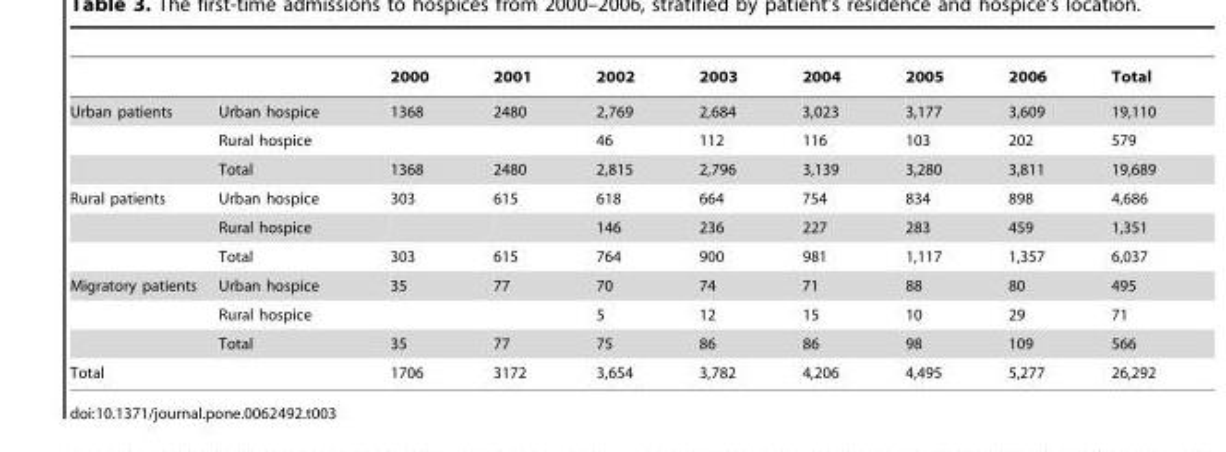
<table><thead><tr><td></td><td></td><td>2000</td><td>2001</td><td>2002</td><td>2003</td><td>2004</td><td>2005</td><td>2006</td><td>Total</td></tr></thead><tbody><tr><td rowspan="3">Urban patients</td><td>Urban hospice</td><td>1368</td><td>2480</td><td>2,769</td><td>2,684</td><td>3,023</td><td>3,177</td><td>3,609</td><td>19,110</td></tr><tr><td>Rural hospice</td><td></td><td></td><td>46</td><td>112</td><td>116</td><td>103</td><td>202</td><td>579</td></tr><tr><td>Total</td><td>1368</td><td>2480</td><td>2,815</td><td>2,796</td><td>3,139</td><td>3,280</td><td>3,811</td><td>19,689</td></tr><tr><td rowspan="3">Rural patients</td><td>Urban hospice</td><td>303</td><td>615</td><td>618</td><td>664</td><td>754</td><td>834</td><td>898</td><td>4,686</td></tr><tr><td>Rural hospice</td><td></td><td></td><td>146</td><td>236</td><td>227</td><td>283</td><td>459</td><td>1,351</td></tr><tr><td>Total</td><td>303</td><td>615</td><td>764</td><td>900</td><td>981</td><td>1,117</td><td>1,357</td><td>6,037</td></tr><tr><td rowspan="3">Migratory patients</td><td>Urban hospice</td><td>35</td><td>77</td><td>70</td><td>74</td><td>71</td><td>88</td><td>80</td><td>495</td></tr><tr><td>Rural hospice</td><td></td><td></td><td>5</td><td>12</td><td>15</td><td>10</td><td>29</td><td>71</td></tr><tr><td>Total</td><td>35</td><td>77</td><td>75</td><td>86</td><td>86</td><td>98</td><td>109</td><td>566</td></tr><tr><td>Total</td><td></td><td>1706</td><td>3172</td><td>3,654</td><td>3,782</td><td>4,206</td><td>4,495</td><td>5,277</td><td>26,292</td></tr></tbody></table>